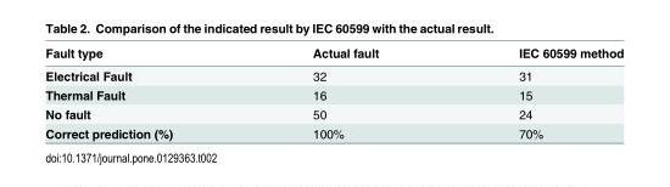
<table><thead><tr><td>Fault type</td><td>Actual fault</td><td>IEC 60599 method</td></tr></thead><tbody><tr><td>Electrical Fault</td><td>32</td><td>31</td></tr><tr><td>Thermal Fault</td><td>16</td><td>15</td></tr><tr><td>No fault</td><td>50</td><td>24</td></tr><tr><td>Correct prediction (%)</td><td>100%</td><td>70%</td></tr></tbody></table>